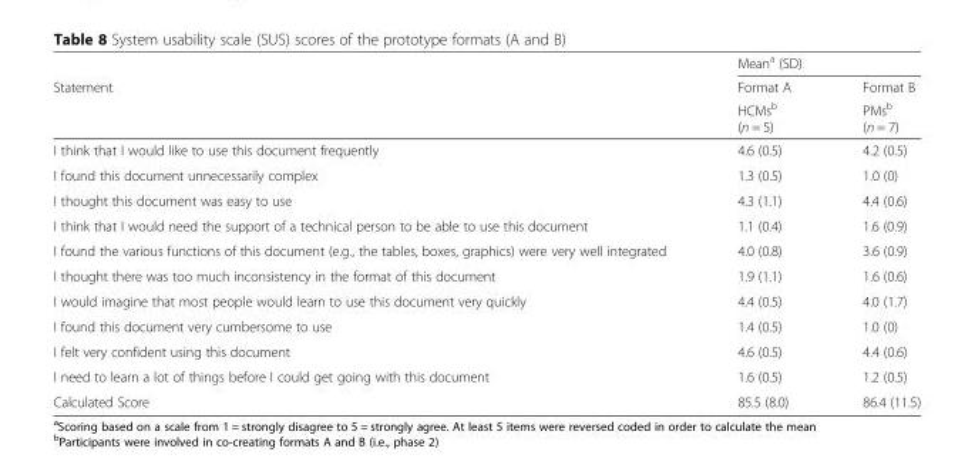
<table><thead><tr><td rowspan="3">Statement</td><td colspan="2">Mean<sup>a</sup> (SD)</td></tr><tr><td rowspan="2">Format A HCMs<sup>b</sup> (n = 5)</td><td rowspan="2">Format B PMs<sup>b</sup> (n = 7)</td></tr><tr></tr></thead><tbody><tr><td>I think that I would like to use this document frequently</td><td>4.6 (0.5)</td><td>4.2 (0.5)</td></tr><tr><td>I found this document unnecessarily complex</td><td>1.3 (0.5)</td><td>1.0 (0)</td></tr><tr><td>I thought this document was easy to use</td><td>4.3 (1.1)</td><td>4.4 (0.6)</td></tr><tr><td>I think that I would need the support of a technical person to be able to use this document</td><td>1.1 (0.4)</td><td>1.6 (0.9)</td></tr><tr><td>I found the various functions of this document (e.g., the tables, boxes, graphics) were very well integrated</td><td>4.0 (0.8)</td><td>3.6 (0.9)</td></tr><tr><td>I thought there was too much inconsistency in the format of this document</td><td>1.9 (1.1)</td><td>1.6 (0.6)</td></tr><tr><td>I would imagine that most people would learn to use this document very quickly</td><td>4.4 (0.5)</td><td>4.0 (1.7)</td></tr><tr><td>I found this document very cumbersome to use</td><td>1.4 (0.5)</td><td>1.0 (0)</td></tr><tr><td>I felt very confident using this document</td><td>4.6 (0.5)</td><td>4.4 (0.6)</td></tr><tr><td>I need to learn a lot of things before I could get going with this document</td><td>1.6 (0.5)</td><td>1.2 (0.5)</td></tr><tr><td>Calculated Score</td><td>85.5 (8.0)</td><td>86.4 (11.5)</td></tr></tbody></table>